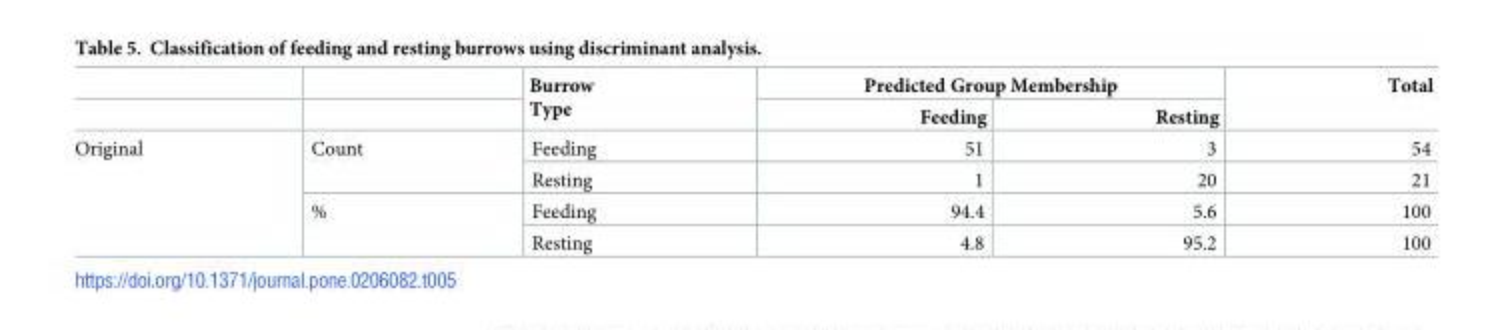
<table><thead><tr><td rowspan="2"></td><td rowspan="2"></td><td rowspan="2">Burrow Type</td><td colspan="2">Predicted Group Membership</td><td rowspan="2">Total</td></tr><tr><td>Feeding</td><td>Resting</td></tr></thead><tbody><tr><td rowspan="4">Original</td><td rowspan="2">Count</td><td>Feeding</td><td>51</td><td>3</td><td>54</td></tr><tr><td>Resting</td><td>1</td><td>20</td><td>21</td></tr><tr><td rowspan="2">%</td><td>Feeding</td><td>94.4</td><td>5.6</td><td>100</td></tr><tr><td>Resting</td><td>4.8</td><td>95.2</td><td>100</td></tr></tbody></table>